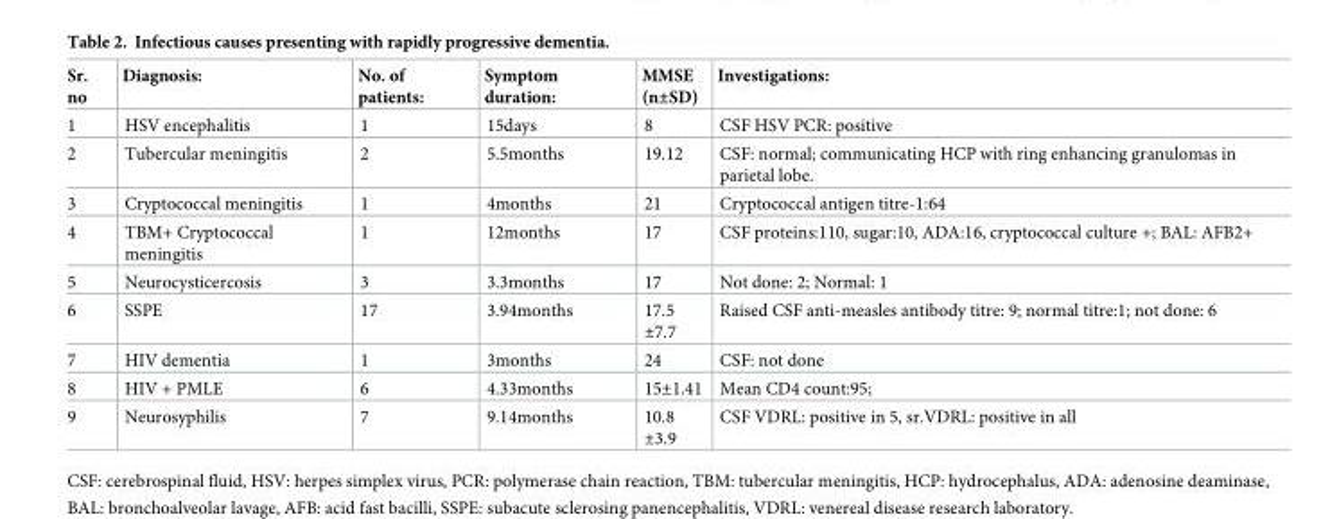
<table><thead><tr><td>Sr. no</td><td>Diagnosis:</td><td>No. of patients:</td><td>Symptom duration:</td><td>MMSE (n±SD)</td><td>Investigations:</td></tr></thead><tbody><tr><td>1</td><td>HSV encephalitis</td><td>1</td><td>15days</td><td>8</td><td>CSF HSV PCR: positive</td></tr><tr><td>2</td><td>Tubercular meningitis</td><td>2</td><td>5.5months</td><td>19.12</td><td>CSF: normal; communicating HCP with ring enhancing granulomas in parietal lobe.</td></tr><tr><td>3</td><td>Cryptococcal meningitis</td><td>1</td><td>4months</td><td>21</td><td>Cryptococcal antigen titre-1:64</td></tr><tr><td>4</td><td>TBM+ Cryptococcal meningitis</td><td>1</td><td>12months</td><td>17</td><td>CSF proteins:110, sugar:10, ADA:16, cryptococcal culture +; BAL: AFB2+</td></tr><tr><td>5</td><td>Neurocysticercosis</td><td>3</td><td>3.3months</td><td>17</td><td>Not done: 2; Normal: 1</td></tr><tr><td>6</td><td>SSPE</td><td>17</td><td>3.94months</td><td>17.5 ±7.7</td><td>Raised CSF anti-measles antibody titre: 9; normal titre:1; not done: 6</td></tr><tr><td>7</td><td>HIV dementia</td><td>1</td><td>3months</td><td>24</td><td>CSF: not done</td></tr><tr><td>8</td><td>HIV + PMLE</td><td>6</td><td>4.33months</td><td>15±1.41</td><td>Mean CD4 count:95;</td></tr><tr><td>9</td><td>Neurosyphilis</td><td>7</td><td>9.14months</td><td>10.8 ±3.9</td><td>CSF VDRL: positive in 5, sr.VDRL: positive in all</td></tr></tbody></table>